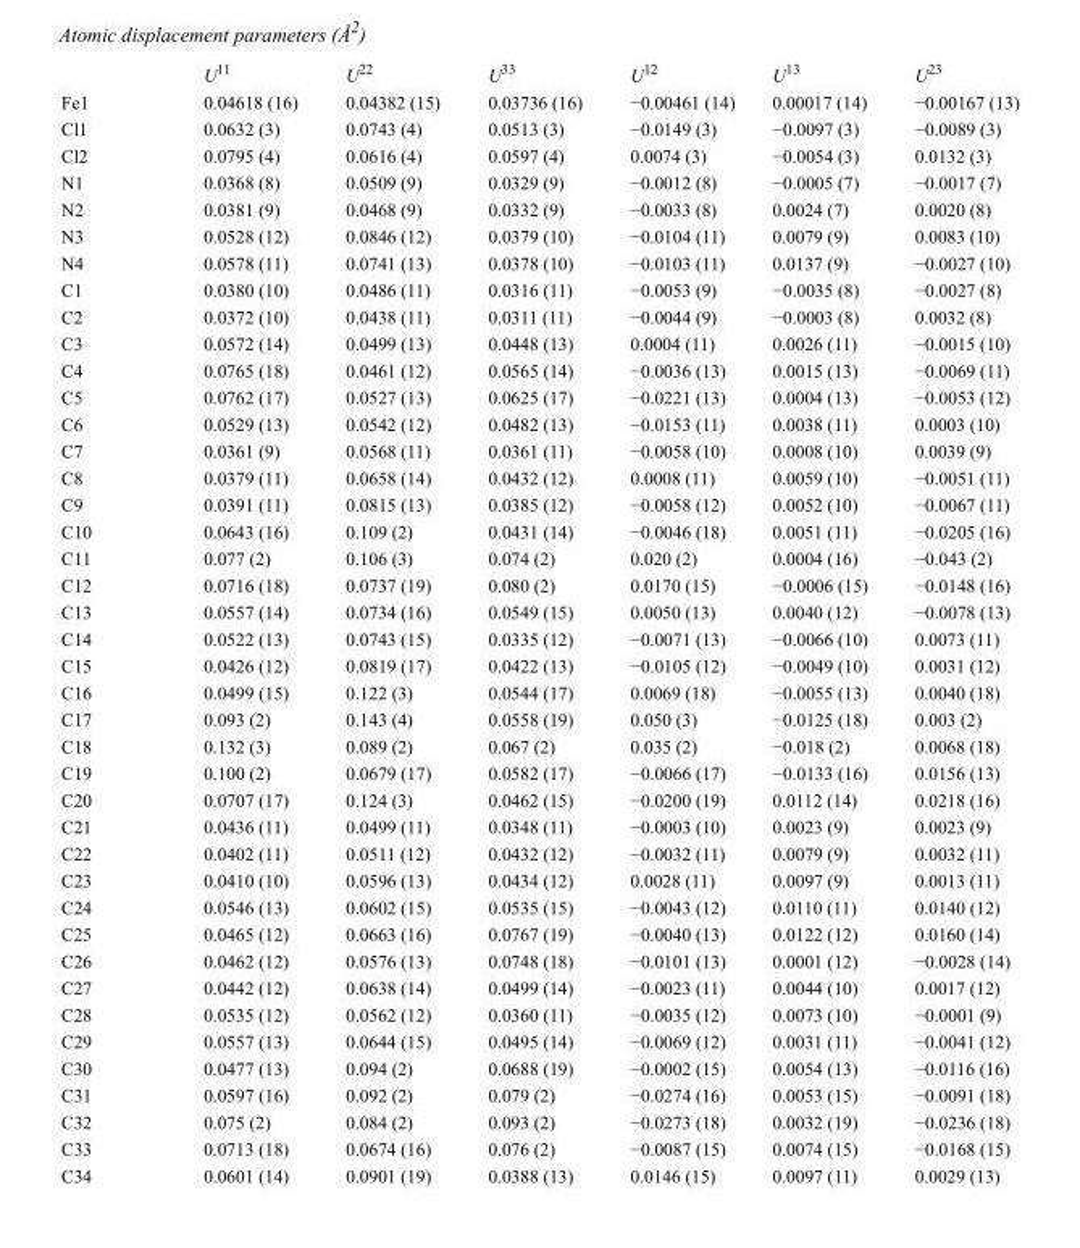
<table><thead><tr><td></td><td>U<sup>11</sup></td><td>U<sup>22</sup></td><td>U<sup>33</sup></td><td>U<sup>12</sup></td><td>U<sup>13</sup></td><td>U<sup>23</sup></td></tr></thead><tbody><tr><td>Fe1</td><td>0.04618 (16)</td><td>0.04382 (15)</td><td>0.03736 (16)</td><td>−0.00461 (14)</td><td>0.00017 (14)</td><td>−0.00167 (13)</td></tr><tr><td>Cl1</td><td>0.0632 (3)</td><td>0.0743 (4)</td><td>0.0513 (3)</td><td>−0.0149 (3)</td><td>−0.0097 (3)</td><td>−0.0089 (3)</td></tr><tr><td>Cl2</td><td>0.0795 (4)</td><td>0.0616 (4)</td><td>0.0597 (4)</td><td>0.0074 (3)</td><td>−0.0054 (3)</td><td>0.0132 (3)</td></tr><tr><td>N1</td><td>0.0368 (8)</td><td>0.0509 (9)</td><td>0.0329 (9)</td><td>−0.0012 (8)</td><td>−0.0005 (7)</td><td>−0.0017 (7)</td></tr><tr><td>N2</td><td>0.0381 (9)</td><td>0.0468 (9)</td><td>0.0332 (9)</td><td>−0.0033 (8)</td><td>0.0024 (7)</td><td>0.0020 (8)</td></tr><tr><td>N3</td><td>0.0528 (12)</td><td>0.0846 (12)</td><td>0.0379 (10)</td><td>−0.0104 (11)</td><td>0.0079 (9)</td><td>0.0083 (10)</td></tr><tr><td>N4</td><td>0.0578 (11)</td><td>0.0741 (13)</td><td>0.0378 (10)</td><td>−0.0103 (11)</td><td>0.0137 (9)</td><td>−0.0027 (10)</td></tr><tr><td>C1</td><td>0.0380 (10)</td><td>0.0486 (11)</td><td>0.0316 (11)</td><td>−0.0053 (9)</td><td>−0.0035 (8)</td><td>−0.0027 (8)</td></tr><tr><td>C2</td><td>0.0372 (10)</td><td>0.0438 (11)</td><td>0.0311 (11)</td><td>−0.0044 (9)</td><td>−0.0003 (8)</td><td>0.0032 (8)</td></tr><tr><td>C3</td><td>0.0572 (14)</td><td>0.0499 (13)</td><td>0.0448 (13)</td><td>0.0004 (11)</td><td>0.0026 (11)</td><td>−0.0015 (10)</td></tr><tr><td>C4</td><td>0.0765 (18)</td><td>0.0461 (12)</td><td>0.0565 (14)</td><td>−0.0036 (13)</td><td>0.0015 (13)</td><td>−0.0069 (11)</td></tr><tr><td>C5</td><td>0.0762 (17)</td><td>0.0527 (13)</td><td>0.0625 (17)</td><td>−0.0221 (13)</td><td>0.0004 (13)</td><td>−0.0053 (12)</td></tr><tr><td>C6</td><td>0.0529 (13)</td><td>0.0542 (12)</td><td>0.0482 (13)</td><td>−0.0153 (11)</td><td>0.0038 (11)</td><td>0.0003 (10)</td></tr><tr><td>C7</td><td>0.0361 (9)</td><td>0.0568 (11)</td><td>0.0361 (11)</td><td>−0.0058 (10)</td><td>0.0008 (10)</td><td>0.0039 (9)</td></tr><tr><td>C8</td><td>0.0379 (11)</td><td>0.0658 (14)</td><td>0.0432 (12)</td><td>0.0008 (11)</td><td>0.0059 (10)</td><td>−0.0051 (11)</td></tr><tr><td>C9</td><td>0.0391 (11)</td><td>0.0815 (13)</td><td>0.0385 (12)</td><td>−0.0058 (12)</td><td>0.0052 (10)</td><td>−0.0067 (11)</td></tr><tr><td>C10</td><td>0.0643 (16)</td><td>0.109 (2)</td><td>0.0431 (14)</td><td>−0.0046 (18)</td><td>0.0051 (11)</td><td>−0.0205 (16)</td></tr><tr><td>C11</td><td>0.077 (2)</td><td>0.106 (3)</td><td>0.074 (2)</td><td>0.020 (2)</td><td>0.0004 (16)</td><td>−0.043 (2)</td></tr><tr><td>C12</td><td>0.0716 (18)</td><td>0.0737 (19)</td><td>0.080 (2)</td><td>0.0170 (15)</td><td>−0.0006 (15)</td><td>−0.0148 (16)</td></tr><tr><td>C13</td><td>0.0557 (14)</td><td>0.0734 (16)</td><td>0.0549 (15)</td><td>0.0050 (13)</td><td>0.0040 (12)</td><td>−0.0078 (13)</td></tr><tr><td>C14</td><td>0.0522 (13)</td><td>0.0743 (15)</td><td>0.0335 (12)</td><td>−0.0071 (13)</td><td>−0.0066 (10)</td><td>0.0073 (11)</td></tr><tr><td>C15</td><td>0.0426 (12)</td><td>0.0819 (17)</td><td>0.0422 (13)</td><td>−0.0105 (12)</td><td>−0.0049 (10)</td><td>0.0031 (12)</td></tr><tr><td>C16</td><td>0.0499 (15)</td><td>0.122 (3)</td><td>0.0544 (17)</td><td>0.0069 (18)</td><td>−0.0055 (13)</td><td>0.0040 (18)</td></tr><tr><td>C17</td><td>0.093 (2)</td><td>0.143 (4)</td><td>0.0558 (19)</td><td>0.050 (3)</td><td>−0.0125 (18)</td><td>0.003 (2)</td></tr><tr><td>C18</td><td>0.132 (3)</td><td>0.089 (2)</td><td>0.067 (2)</td><td>0.035 (2)</td><td>−0.018 (2)</td><td>0.0068 (18)</td></tr><tr><td>C19</td><td>0.100 (2)</td><td>0.0679 (17)</td><td>0.0582 (17)</td><td>−0.0066 (17)</td><td>−0.0133 (16)</td><td>0.0156 (13)</td></tr><tr><td>C20</td><td>0.0707 (17)</td><td>0.124 (3)</td><td>0.0462 (15)</td><td>−0.0200 (19)</td><td>0.0112 (14)</td><td>0.0218 (16)</td></tr><tr><td>C21</td><td>0.0436 (11)</td><td>0.0499 (11)</td><td>0.0348 (11)</td><td>−0.0003 (10)</td><td>0.0023 (9)</td><td>0.0023 (9)</td></tr><tr><td>C22</td><td>0.0402 (11)</td><td>0.0511 (12)</td><td>0.0432 (12)</td><td>−0.0032 (11)</td><td>0.0079 (9)</td><td>0.0032 (11)</td></tr><tr><td>C23</td><td>0.0410 (10)</td><td>0.0596 (13)</td><td>0.0434 (12)</td><td>0.0028 (11)</td><td>0.0097 (9)</td><td>0.0013 (11)</td></tr><tr><td>C24</td><td>0.0546 (13)</td><td>0.0602 (15)</td><td>0.0535 (15)</td><td>−0.0043 (12)</td><td>0.0110 (11)</td><td>0.0140 (12)</td></tr><tr><td>C25</td><td>0.0465 (12)</td><td>0.0663 (16)</td><td>0.0767 (19)</td><td>−0.0040 (13)</td><td>0.0122 (12)</td><td>0.0160 (14)</td></tr><tr><td>C26</td><td>0.0462 (12)</td><td>0.0576 (13)</td><td>0.0748 (18)</td><td>−0.0101 (13)</td><td>0.0001 (12)</td><td>−0.0028 (14)</td></tr><tr><td>C27</td><td>0.0442 (12)</td><td>0.0638 (14)</td><td>0.0499 (14)</td><td>−0.0023 (11)</td><td>0.0044 (10)</td><td>0.0017 (12)</td></tr><tr><td>C28</td><td>0.0535 (12)</td><td>0.0562 (12)</td><td>0.0360 (11)</td><td>−0.0035 (12)</td><td>0.0073 (10)</td><td>−0.0001 (9)</td></tr><tr><td>C29</td><td>0.0557 (13)</td><td>0.0644 (15)</td><td>0.0495 (14)</td><td>−0.0069 (12)</td><td>0.0031 (11)</td><td>−0.0041 (12)</td></tr><tr><td>C30</td><td>0.0477 (13)</td><td>0.094 (2)</td><td>0.0688 (19)</td><td>−0.0002 (15)</td><td>0.0054 (13)</td><td>−0.0116 (16)</td></tr><tr><td>C31</td><td>0.0597 (16)</td><td>0.092 (2)</td><td>0.079 (2)</td><td>−0.0274 (16)</td><td>0.0053 (15)</td><td>−0.0091 (18)</td></tr><tr><td>C32</td><td>0.075 (2)</td><td>0.084 (2)</td><td>0.093 (2)</td><td>−0.0273 (18)</td><td>0.0032 (19)</td><td>−0.0236 (18)</td></tr><tr><td>C33</td><td>0.0713 (18)</td><td>0.0674 (16)</td><td>0.076 (2)</td><td>−0.0087 (15)</td><td>0.0074 (15)</td><td>−0.0168 (15)</td></tr><tr><td>C34</td><td>0.0601 (14)</td><td>0.0901 (19)</td><td>0.0388 (13)</td><td>0.0146 (15)</td><td>0.0097 (11)</td><td>0.0029 (13)</td></tr></tbody></table>